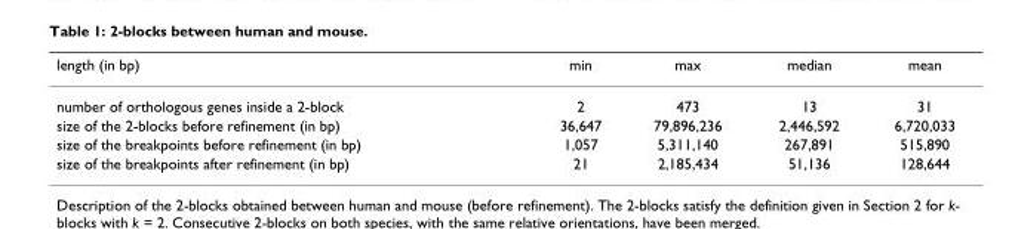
<table><thead><tr><td>length (in bp)</td><td>min</td><td>max</td><td>median</td><td>mean</td></tr></thead><tbody><tr><td>number of orthologous genes inside a 2-block</td><td>2</td><td>473</td><td>13</td><td>31</td></tr><tr><td>size of the 2-blocks before refinement (in bp)</td><td>36,647</td><td>79,896,236</td><td>2,446,592</td><td>6,720,033</td></tr><tr><td>size of the breakpoints before refinement (in bp)</td><td>1,057</td><td>5,311,140</td><td>267,891</td><td>515,890</td></tr><tr><td>size of the breakpoints after refinement (in bp)</td><td>21</td><td>2,185,434</td><td>51,136</td><td>128,644</td></tr></tbody></table>